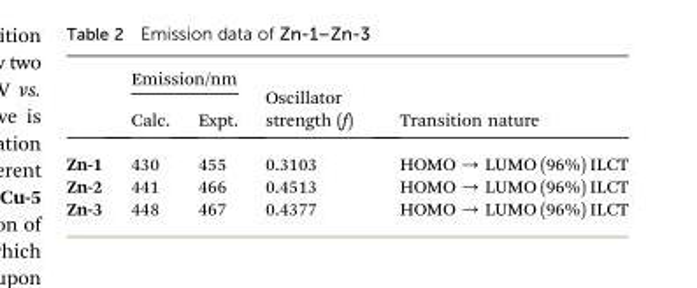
<table><thead><tr><td rowspan="2"></td><td colspan="2">Emission/nm</td><td rowspan="2">Oscillator strength (f)</td><td rowspan="2">Transition nature</td></tr><tr><td>Calc.</td><td>Expt.</td></tr></thead><tbody><tr><td>Zn-1</td><td>430</td><td>455</td><td>0.3103</td><td>HOMO → LUMO (96%) ILCT</td></tr><tr><td>Zn-2</td><td>441</td><td>466</td><td>0.4513</td><td>HOMO → LUMO (96%) ILCT</td></tr><tr><td>Zn-3</td><td>448</td><td>467</td><td>0.4377</td><td>HOMO → LUMO (96%) ILCT</td></tr></tbody></table>